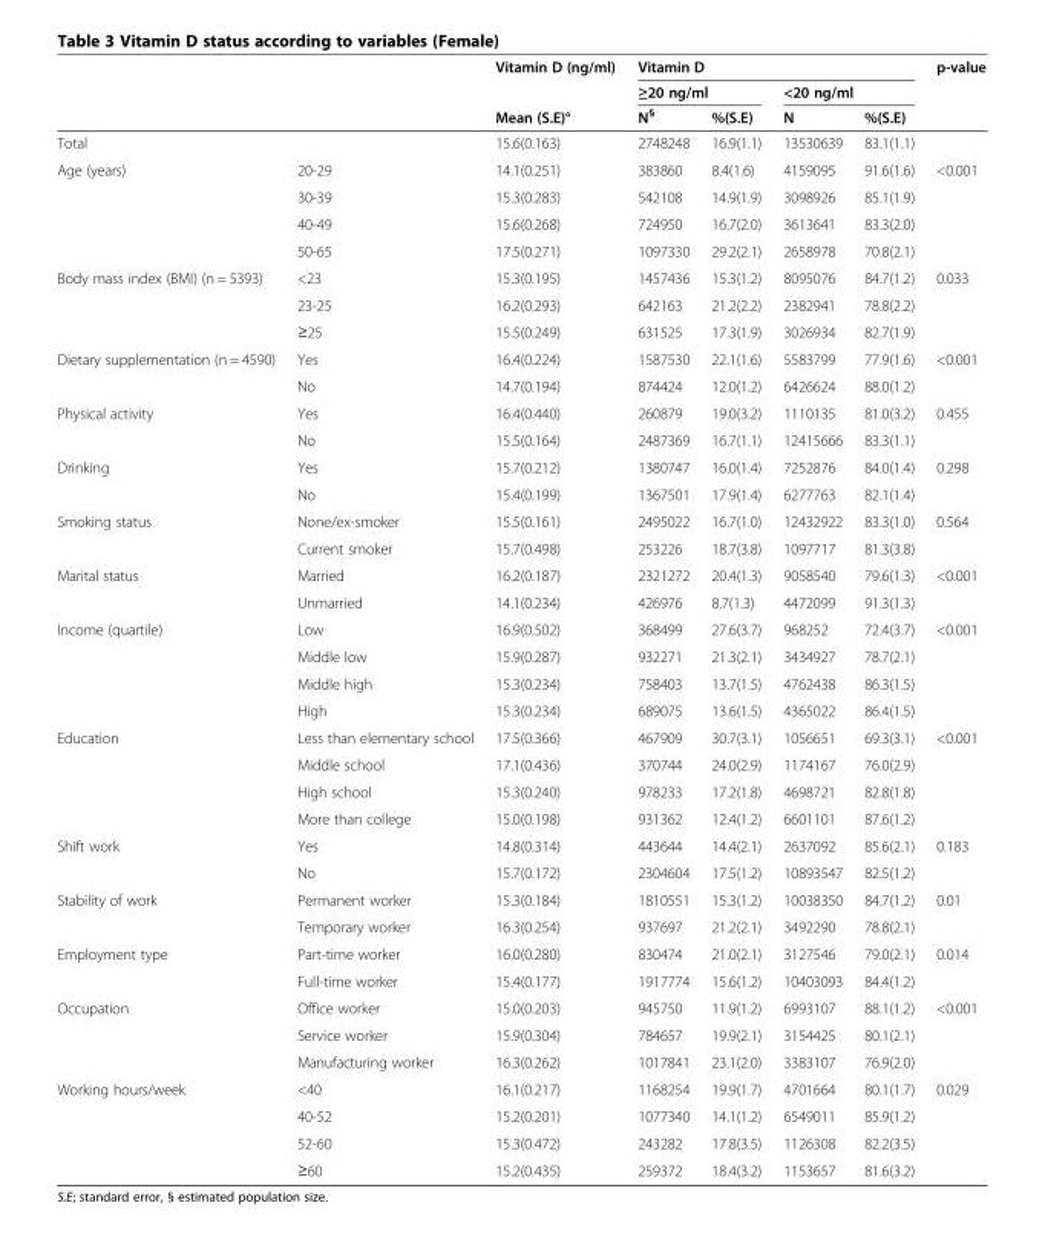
<table><thead><tr><td rowspan="3"></td><td rowspan="3"></td><td rowspan="3">Vitamin D (ng/ml) Mean (S.E)°</td><td colspan="4">Vitamin D</td><td rowspan="3">p-value</td></tr><tr><td colspan="2">≥20 ng/ml</td><td colspan="2">&lt;20 ng/ml</td></tr><tr><td>N<sup>§</sup></td><td>%(S.E)</td><td>N</td><td>%(S.E)</td></tr></thead><tbody><tr><td colspan="2">Total</td><td>15.6(0.163)</td><td>2748248</td><td>16.9(1.1)</td><td>13530639</td><td>83.1(1.1)</td><td></td></tr><tr><td rowspan="4">Age (years)</td><td>20-29</td><td>14.1(0.251)</td><td>383860</td><td>8.4(1.6)</td><td>4159095</td><td>91.6(1.6)</td><td rowspan="4">&lt;0.001</td></tr><tr><td>30-39</td><td>15.3(0.283)</td><td>542108</td><td>14.9(1.9)</td><td>3098926</td><td>85.1(1.9)</td></tr><tr><td>40-49</td><td>15.6(0.268)</td><td>724950</td><td>16.7(2.0)</td><td>3613641</td><td>83.3(2.0)</td></tr><tr><td>50-65</td><td>17.5(0.271)</td><td>1097330</td><td>29.2(2.1)</td><td>2658978</td><td>70.8(2.1)</td></tr><tr><td rowspan="3">Body mass index (BMI) (n = 5393)</td><td>&lt;23</td><td>15.3(0.195)</td><td>1457436</td><td>15.3(1.2)</td><td>8095076</td><td>84.7(1.2)</td><td rowspan="3">0.033</td></tr><tr><td>23-25</td><td>16.2(0.293)</td><td>642163</td><td>21.2(2.2)</td><td>2382941</td><td>78.8(2.2)</td></tr><tr><td>≥25</td><td>15.5(0.249)</td><td>631525</td><td>17.3(1.9)</td><td>3026934</td><td>82.7(1.9)</td></tr><tr><td rowspan="2">Dietary supplementation (n = 4590)</td><td>Yes</td><td>16.4(0.224)</td><td>1587530</td><td>22.1(1.6)</td><td>5583799</td><td>77.9(1.6)</td><td rowspan="2">&lt;0.001</td></tr><tr><td>No</td><td>14.7(0.194)</td><td>874424</td><td>12.0(1.2)</td><td>6426624</td><td>88.0(1.2)</td></tr><tr><td rowspan="2">Physical activity</td><td>Yes</td><td>16.4(0.440)</td><td>260879</td><td>19.0(3.2)</td><td>1110135</td><td>81.0(3.2)</td><td rowspan="2">0.455</td></tr><tr><td>No</td><td>15.5(0.164)</td><td>2487369</td><td>16.7(1.1)</td><td>12415666</td><td>83.3(1.1)</td></tr><tr><td rowspan="2">Drinking</td><td>Yes</td><td>15.7(0.212)</td><td>1380747</td><td>16.0(1.4)</td><td>7252876</td><td>84.0(1.4)</td><td rowspan="2">0.298</td></tr><tr><td>No</td><td>15.4(0.199)</td><td>1367501</td><td>17.9(1.4)</td><td>6277763</td><td>82.1(1.4)</td></tr><tr><td rowspan="2">Smoking status</td><td>None/ex-smoker</td><td>15.5(0.161)</td><td>2495022</td><td>16.7(1.0)</td><td>12432922</td><td>83.3(1.0)</td><td rowspan="2">0.564</td></tr><tr><td>Current smoker</td><td>15.7(0.498)</td><td>253226</td><td>18.7(3.8)</td><td>1097717</td><td>81.3(3.8)</td></tr><tr><td rowspan="2">Marital status</td><td>Married</td><td>16.2(0.187)</td><td>2321272</td><td>20.4(1.3)</td><td>9058540</td><td>79.6(1.3)</td><td rowspan="2">&lt;0.001</td></tr><tr><td>Unmarried</td><td>14.1(0.234)</td><td>426976</td><td>8.7(1.3)</td><td>4472099</td><td>91.3(1.3)</td></tr><tr><td rowspan="4">Income (quartile)</td><td>Low</td><td>16.9(0.502)</td><td>368499</td><td>27.6(3.7)</td><td>968252</td><td>72.4(3.7)</td><td rowspan="4">&lt;0.001</td></tr><tr><td>Middle low</td><td>15.9(0.287)</td><td>932271</td><td>21.3(2.1)</td><td>3434927</td><td>78.7(2.1)</td></tr><tr><td>Middle high</td><td>15.3(0.234)</td><td>758403</td><td>13.7(1.5)</td><td>4762438</td><td>86.3(1.5)</td></tr><tr><td>High</td><td>15.3(0.234)</td><td>689075</td><td>13.6(1.5)</td><td>4365022</td><td>86.4(1.5)</td></tr><tr><td rowspan="4">Education</td><td>Less than elementary school</td><td>17.5(0.366)</td><td>467909</td><td>30.7(3.1)</td><td>1056651</td><td>69.3(3.1)</td><td rowspan="4">&lt;0.001</td></tr><tr><td>Middle school</td><td>17.1(0.436)</td><td>370744</td><td>24.0(2.9)</td><td>1174167</td><td>76.0(2.9)</td></tr><tr><td>High school</td><td>15.3(0.240)</td><td>978233</td><td>17.2(1.8)</td><td>4698721</td><td>82.8(1.8)</td></tr><tr><td>More than college</td><td>15.0(0.198)</td><td>931362</td><td>12.4(1.2)</td><td>6601101</td><td>87.6(1.2)</td></tr><tr><td rowspan="2">Shift work</td><td>Yes</td><td>14.8(0.314)</td><td>443644</td><td>14.4(2.1)</td><td>2637092</td><td>85.6(2.1)</td><td rowspan="2">0.183</td></tr><tr><td>No</td><td>15.7(0.172)</td><td>2304604</td><td>17.5(1.2)</td><td>10893547</td><td>82.5(1.2)</td></tr><tr><td rowspan="2">Stability of work</td><td>Permanent worker</td><td>15.3(0.184)</td><td>1810551</td><td>15.3(1.2)</td><td>10038350</td><td>84.7(1.2)</td><td rowspan="2">0.01</td></tr><tr><td>Temporary worker</td><td>16.3(0.254)</td><td>937697</td><td>21.2(2.1)</td><td>3492290</td><td>78.8(2.1)</td></tr><tr><td rowspan="2">Employment type</td><td>Part-time worker</td><td>16.0(0.280)</td><td>830474</td><td>21.0(2.1)</td><td>3127546</td><td>79.0(2.1)</td><td rowspan="2">0.014</td></tr><tr><td>Full-time worker</td><td>15.4(0.177)</td><td>1917774</td><td>15.6(1.2)</td><td>10403093</td><td>84.4(1.2)</td></tr><tr><td rowspan="3">Occupation</td><td>Office worker</td><td>15.0(0.203)</td><td>945750</td><td>11.9(1.2)</td><td>6993107</td><td>88.1(1.2)</td><td rowspan="3">&lt;0.001</td></tr><tr><td>Service worker</td><td>15.9(0.304)</td><td>784657</td><td>19.9(2.1)</td><td>3154425</td><td>80.1(2.1)</td></tr><tr><td>Manufacturing worker</td><td>16.3(0.262)</td><td>1017841</td><td>23.1(2.0)</td><td>3383107</td><td>76.9(2.0)</td></tr><tr><td rowspan="4">Working hours/week</td><td>&lt;40</td><td>16.1(0.217)</td><td>1168254</td><td>19.9(1.7)</td><td>4701664</td><td>80.1(1.7)</td><td rowspan="4">0.029</td></tr><tr><td>40-52</td><td>15.2(0.201)</td><td>1077340</td><td>14.1(1.2)</td><td>6549011</td><td>85.9(1.2)</td></tr><tr><td>52-60</td><td>15.3(0.472)</td><td>243282</td><td>17.8(3.5)</td><td>1126308</td><td>82.2(3.5)</td></tr><tr><td>≥60</td><td>15.2(0.435)</td><td>259372</td><td>18.4(3.2)</td><td>1153657</td><td>81.6(3.2)</td></tr></tbody></table>